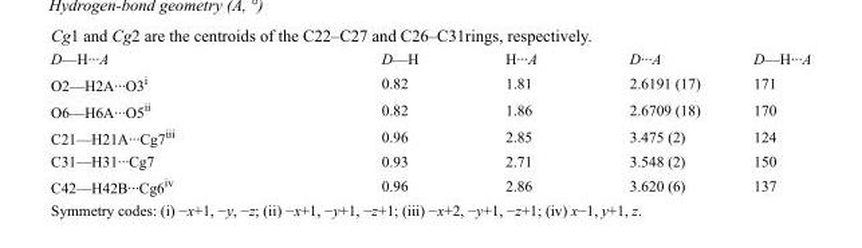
<table><tbody><tr><td>D—H···A</td><td>D—H</td><td>H···A</td><td>D···A</td><td>D—H···A</td></tr><tr><td>O2—H2A···O3<sup>i</sup></td><td>0.82</td><td>1.81</td><td>2.6191 (17)</td><td>171</td></tr><tr><td>O6—H6A···O5<sup>ii</sup></td><td>0.82</td><td>1.86</td><td>2.6709 (18)</td><td>170</td></tr><tr><td>C21—H21A···Cg7<sup>iii</sup></td><td>0.96</td><td>2.85</td><td>3.475 (2)</td><td>124</td></tr><tr><td>C31—H31···Cg7</td><td>0.93</td><td>2.71</td><td>3.548 (2)</td><td>150</td></tr><tr><td>C42—H42B···Cg6<sup>iv</sup></td><td>0.96</td><td>2.86</td><td>3.620 (6)</td><td>137</td></tr></tbody></table>